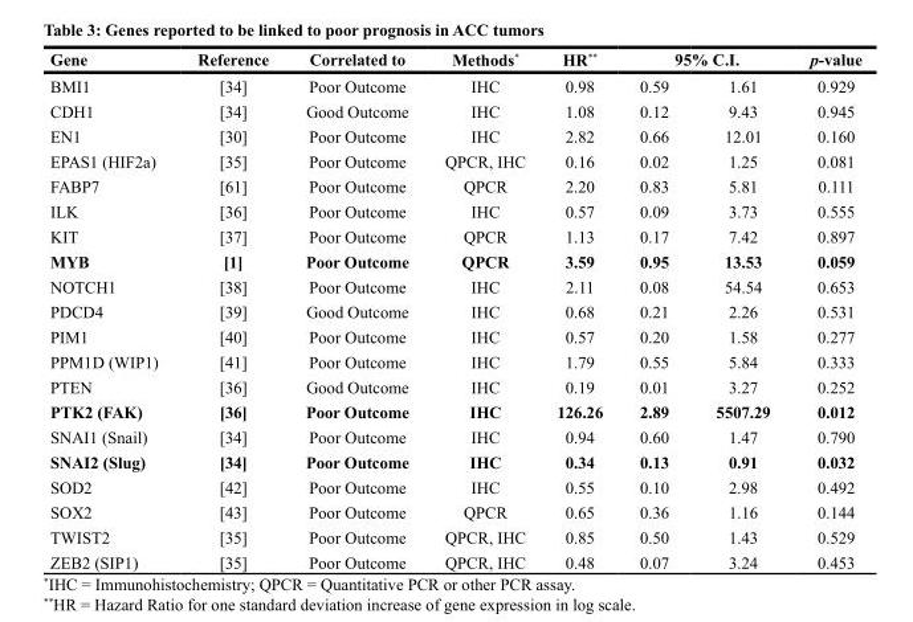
<table><thead><tr><td rowspan="2">Gene BMI1</td><td rowspan="2">Reference [34]</td><td rowspan="2">Correlated to Poor Outcome</td><td rowspan="2">Methods* IHC</td><td rowspan="2">HR** 0.98</td><td colspan="2">95% C.I.</td><td rowspan="2">p-value 0.929</td></tr><tr><td>0.59</td><td>1.61</td></tr></thead><tbody><tr><td>CDH1</td><td>[34]</td><td>Good Outcome</td><td>IHC</td><td>1.08</td><td>0.12</td><td>9.43</td><td>0.945</td></tr><tr><td>EN1</td><td>[30]</td><td>Poor Outcome</td><td>IHC</td><td>2.82</td><td>0.66</td><td>12.01</td><td>0.160</td></tr><tr><td>EPAS1 (HIF2a)</td><td>[35]</td><td>Poor Outcome</td><td>QPCR, IHC</td><td>0.16</td><td>0.02</td><td>1.25</td><td>0.081</td></tr><tr><td>FABP7</td><td>[61]</td><td>Poor Outcome</td><td>QPCR</td><td>2.20</td><td>0.83</td><td>5.81</td><td>0.111</td></tr><tr><td>ILK</td><td>[36]</td><td>Poor Outcome</td><td>IHC</td><td>0.57</td><td>0.09</td><td>3.73</td><td>0.555</td></tr><tr><td>KIT</td><td>[37]</td><td>Poor Outcome</td><td>QPCR</td><td>1.13</td><td>0.17</td><td>7.42</td><td>0.897</td></tr><tr><td>MYB</td><td>[1]</td><td>Poor Outcome</td><td>QPCR</td><td>3.59</td><td>0.95</td><td>13.53</td><td>0.059</td></tr><tr><td>NOTCH1</td><td>[38]</td><td>Poor Outcome</td><td>IHC</td><td>2.11</td><td>0.08</td><td>54.54</td><td>0.653</td></tr><tr><td>PDCD4</td><td>[39]</td><td>Good Outcome</td><td>IHC</td><td>0.68</td><td>0.21</td><td>2.26</td><td>0.531</td></tr><tr><td>PIM1</td><td>[40]</td><td>Poor Outcome</td><td>IHC</td><td>0.57</td><td>0.20</td><td>1.58</td><td>0.277</td></tr><tr><td>PPM1D (WIP1)</td><td>[41]</td><td>Poor Outcome</td><td>IHC</td><td>1.79</td><td>0.55</td><td>5.84</td><td>0.333</td></tr><tr><td>PTEN</td><td>[36]</td><td>Good Outcome</td><td>IHC</td><td>0.19</td><td>0.01</td><td>3.27</td><td>0.252</td></tr><tr><td>PTK2 (FAK)</td><td>[36]</td><td>Poor Outcome</td><td>IHC</td><td>126.26</td><td>2.89</td><td>5507.29</td><td>0.012</td></tr><tr><td>SNAI1 (Snail)</td><td>[34]</td><td>Poor Outcome</td><td>IHC</td><td>0.94</td><td>0.60</td><td>1.47</td><td>0.790</td></tr><tr><td>SNAI2 (Slug)</td><td>[34]</td><td>Poor Outcome</td><td>IHC</td><td>0.34</td><td>0.13</td><td>0.91</td><td>0.032</td></tr><tr><td>SOD2</td><td>[42]</td><td>Poor Outcome</td><td>IHC</td><td>0.55</td><td>0.10</td><td>2.98</td><td>0.492</td></tr><tr><td>SOX2</td><td>[43]</td><td>Poor Outcome</td><td>QPCR</td><td>0.65</td><td>0.36</td><td>1.16</td><td>0.144</td></tr><tr><td>TWIST2</td><td>[35]</td><td>Poor Outcome</td><td>QPCR, IHC</td><td>0.85</td><td>0.50</td><td>1.43</td><td>0.529</td></tr><tr><td>ZEB2 (SIP1)</td><td>[35]</td><td>Poor Outcome</td><td>QPCR, IHC</td><td>0.48</td><td>0.07</td><td>3.24</td><td>0.453</td></tr></tbody></table>